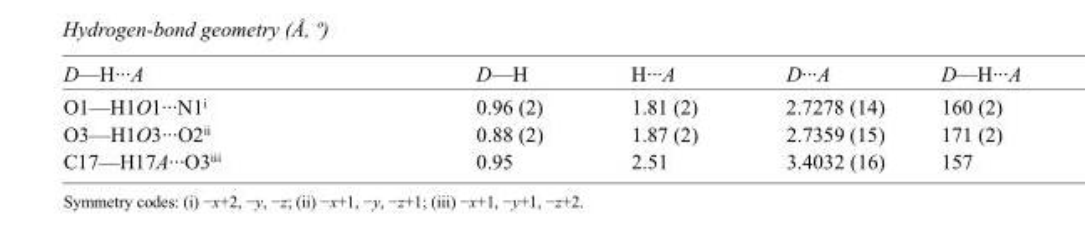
<table><tbody><tr><td>D—H···A</td><td>D—H</td><td>H···A</td><td>D···A</td><td>D—H···A</td></tr><tr><td>O1—H1O1···N1<sup>i</sup></td><td>0.96 (2)</td><td>1.81 (2)</td><td>2.7278 (14)</td><td>160 (2)</td></tr><tr><td>O3—H1O3···O2<sup>ii</sup></td><td>0.88 (2)</td><td>1.87 (2)</td><td>2.7359 (15)</td><td>171 (2)</td></tr><tr><td>C17—H17A···O3<sup>iii</sup></td><td>0.95</td><td>2.51</td><td>3.4032 (16)</td><td>157</td></tr></tbody></table>